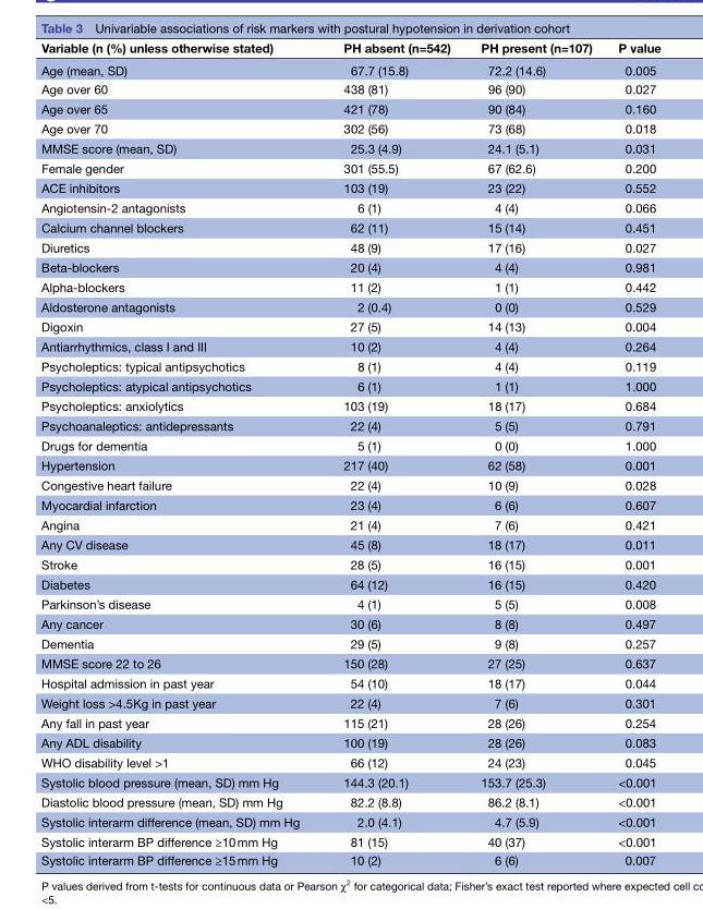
<table><thead><tr><td>Variable (n (%) unless otherwise stated)</td><td>PH absent (n=542)</td><td>PH present (n=107)</td><td>P value</td></tr></thead><tbody><tr><td>Age (mean, SD)</td><td>67.7 (15.8)</td><td>72.2 (14.6)</td><td>0.005</td></tr><tr><td>Age over 60</td><td>438 (81)</td><td>96 (90)</td><td>0.027</td></tr><tr><td>Age over 65</td><td>421 (78)</td><td>90 (84)</td><td>0.160</td></tr><tr><td>Age over 70</td><td>302 (56)</td><td>73 (68)</td><td>0.018</td></tr><tr><td>MMSE score (mean, SD)</td><td>25.3 (4.9)</td><td>24.1 (5.1)</td><td>0.031</td></tr><tr><td>Female gender</td><td>301 (55.5)</td><td>67 (62.6)</td><td>0.200</td></tr><tr><td>ACE inhibitors</td><td>103 (19)</td><td>23 (22)</td><td>0.552</td></tr><tr><td>Angiotensin-2 antagonists</td><td>6 (1)</td><td>4 (4)</td><td>0.066</td></tr><tr><td>Calcium channel blockers</td><td>62 (11)</td><td>15 (14)</td><td>0.451</td></tr><tr><td>Diuretics</td><td>48 (9)</td><td>17 (16)</td><td>0.027</td></tr><tr><td>Beta-blockers</td><td>20 (4)</td><td>4 (4)</td><td>0.981</td></tr><tr><td>Alpha-blockers</td><td>11 (2)</td><td>1 (1)</td><td>0.442</td></tr><tr><td>Aldosterone antagonists</td><td>2 (0.4)</td><td>0 (0)</td><td>0.529</td></tr><tr><td>Digoxin</td><td>27 (5)</td><td>14 (13)</td><td>0.004</td></tr><tr><td>Antiarrhythmics, class I and III</td><td>10 (2)</td><td>4 (4)</td><td>0.264</td></tr><tr><td>Psycholeptics: typical antipsychotics</td><td>8 (1)</td><td>4 (4)</td><td>0.119</td></tr><tr><td>Psycholeptics: atypical antipsychotics</td><td>6 (1)</td><td>1 (1)</td><td>1.000</td></tr><tr><td>Psycholeptics: anxiolytics</td><td>103 (19)</td><td>18 (17)</td><td>0.684</td></tr><tr><td>Psychoanaleptics: antidepressants</td><td>22 (4)</td><td>5 (5)</td><td>0.791</td></tr><tr><td>Drugs for dementia</td><td>5 (1)</td><td>0 (0)</td><td>1.000</td></tr><tr><td>Hypertension</td><td>217 (40)</td><td>62 (58)</td><td>0.001</td></tr><tr><td>Congestive heart failure</td><td>22 (4)</td><td>10 (9)</td><td>0.028</td></tr><tr><td>Myocardial infarction</td><td>23 (4)</td><td>6 (6)</td><td>0.607</td></tr><tr><td>Angina</td><td>21 (4)</td><td>7 (6)</td><td>0.421</td></tr><tr><td>Any CV disease</td><td>45 (8)</td><td>18 (17)</td><td>0.011</td></tr><tr><td>Stroke</td><td>28 (5)</td><td>16 (15)</td><td>0.001</td></tr><tr><td>Diabetes</td><td>64 (12)</td><td>16 (15)</td><td>0.420</td></tr><tr><td>Parkinson’s disease</td><td>4 (1)</td><td>5 (5)</td><td>0.008</td></tr><tr><td>Any cancer</td><td>30 (6)</td><td>8 (8)</td><td>0.497</td></tr><tr><td>Dementia</td><td>29 (5)</td><td>9 (8)</td><td>0.257</td></tr><tr><td>MMSE score 22 to 26</td><td>150 (28)</td><td>27 (25)</td><td>0.637</td></tr><tr><td>Hospital admission in past year</td><td>54 (10)</td><td>18 (17)</td><td>0.044</td></tr><tr><td>Weight loss &gt;4.5Kg in past year</td><td>22 (4)</td><td>7 (6)</td><td>0.301</td></tr><tr><td>Any fall in past year</td><td>115 (21)</td><td>28 (26)</td><td>0.254</td></tr><tr><td>Any ADL disability</td><td>100 (19)</td><td>28 (26)</td><td>0.083</td></tr><tr><td>WHO disability level &gt;1</td><td>66 (12)</td><td>24 (23)</td><td>0.045</td></tr><tr><td>Systolic blood pressure (mean, SD) mm Hg</td><td>144.3 (20.1)</td><td>153.7 (25.3)</td><td>&lt;0.001</td></tr><tr><td>Diastolic blood pressure (mean, SD) mm Hg</td><td>82.2 (8.8)</td><td>86.2 (8.1)</td><td>&lt;0.001</td></tr><tr><td>Systolic interarm difference (mean, SD) mm Hg</td><td>2.0 (4.1)</td><td>4.7 (5.9)</td><td>&lt;0.001</td></tr><tr><td>Systolic interarm BP difference ≥10 mm Hg</td><td>81 (15)</td><td>40 (37)</td><td>&lt;0.001</td></tr><tr><td>Systolic interarm BP difference ≥15 mm Hg</td><td>10 (2)</td><td>6 (6)</td><td>0.007</td></tr></tbody></table>